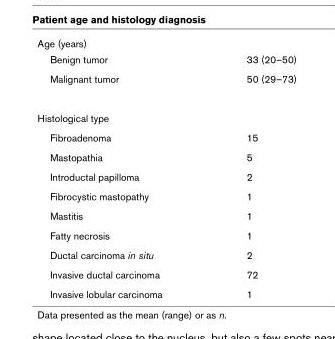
<table><tbody><tr><td colspan="2">Age (years)</td></tr><tr><td>Benign tumor</td><td>33 (20–50)</td></tr><tr><td>Malignant tumor</td><td>50 (29–73)</td></tr><tr><td colspan="2">Histological type</td></tr><tr><td>Fibroadenoma</td><td>15</td></tr><tr><td>Mastopathia</td><td>5</td></tr><tr><td>Introductal papilloma</td><td>2</td></tr><tr><td>Fibrocystic mastopathy</td><td>1</td></tr><tr><td>Mastitis</td><td>1</td></tr><tr><td>Fatty necrosis</td><td>1</td></tr><tr><td>Ductal carcinoma in situ</td><td>2</td></tr><tr><td>Invasive ductal carcinoma</td><td>72</td></tr><tr><td>Invasive lobular carcinoma</td><td>1</td></tr></tbody></table>